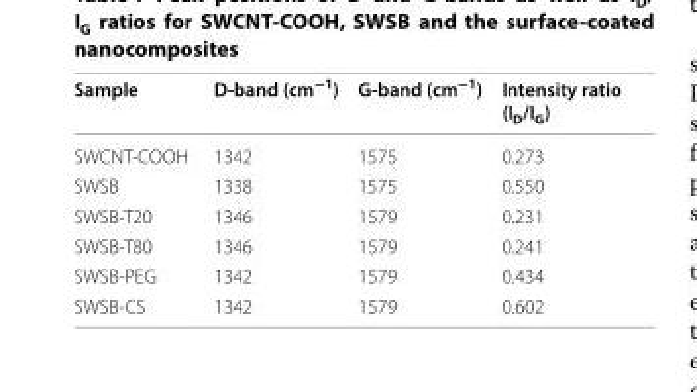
<table><thead><tr><td>Sample</td><td>D‑band (cm<sup>−1</sup>)</td><td>G‑band (cm<sup>−1</sup>)</td><td>Intensity ratio (I<sub>D</sub>/I<sub>G</sub>)</td></tr></thead><tbody><tr><td>SWCNT-COOH</td><td>1342</td><td>1575</td><td>0.273</td></tr><tr><td>SWSB</td><td>1338</td><td>1575</td><td>0.550</td></tr><tr><td>SWSB-T20</td><td>1346</td><td>1579</td><td>0.231</td></tr><tr><td>SWSB-T80</td><td>1346</td><td>1579</td><td>0.241</td></tr><tr><td>SWSB-PEG</td><td>1342</td><td>1579</td><td>0.434</td></tr><tr><td>SWSB-CS</td><td>1342</td><td>1579</td><td>0.602</td></tr></tbody></table>